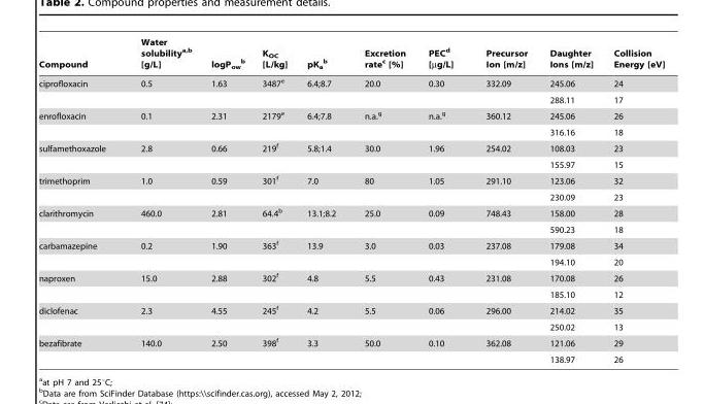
<table><thead><tr><td>Compound</td><td>Water solubilitya,b [g/L]</td><td>logP<sub>ow</sub> b</td><td>K<sub>OC</sub> [L/kg]</td><td>pK<sub>a</sub> b</td><td>Excretion rate<sup>c</sup> [%]</td><td>PEC<sup>d</sup> [µg/L]</td><td>Precursor Ion [m/z]</td><td>Daughter Ions [m/z]</td><td>Collision Energy [eV]</td></tr></thead><tbody><tr><td rowspan="2">ciprofloxacin</td><td>0.5</td><td>1.63</td><td>3487<sup>e</sup></td><td>6.4;8.7</td><td>20.0</td><td>0.30</td><td>332.09</td><td>245.06</td><td>24</td></tr><tr><td></td><td></td><td></td><td></td><td></td><td></td><td></td><td>288.11</td><td>17</td></tr><tr><td rowspan="2">enrofloxacin</td><td>0.1</td><td>2.31</td><td>2179<sup>e</sup></td><td>6.4;7.8</td><td>n.a.<sup>g</sup></td><td>n.a.<sup>g</sup></td><td>360.12</td><td>245.06</td><td>26</td></tr><tr><td></td><td></td><td></td><td></td><td></td><td></td><td></td><td>316.16</td><td>18</td></tr><tr><td rowspan="2">sulfamethoxazole</td><td>2.8</td><td>0.66</td><td>219<sup>f</sup></td><td>5.8;1.4</td><td>30.0</td><td>1.96</td><td>254.02</td><td>108.03</td><td>23</td></tr><tr><td></td><td></td><td></td><td></td><td></td><td></td><td></td><td>155.97</td><td>15</td></tr><tr><td rowspan="2">trimethoprim</td><td>1.0</td><td>0.59</td><td>301<sup>f</sup></td><td>7.0</td><td>80</td><td>1.05</td><td>291.10</td><td>123.06</td><td>32</td></tr><tr><td></td><td></td><td></td><td></td><td></td><td></td><td></td><td>230.09</td><td>23</td></tr><tr><td rowspan="2">clarithromycin</td><td>460.0</td><td>2.81</td><td>64.4<sup>b</sup></td><td>13.1;8.2</td><td>25.0</td><td>0.09</td><td>748.43</td><td>158.00</td><td>28</td></tr><tr><td></td><td></td><td></td><td></td><td></td><td></td><td></td><td>590.23</td><td>18</td></tr><tr><td rowspan="2">carbamazepine</td><td>0.2</td><td>1.90</td><td>363<sup>f</sup></td><td>13.9</td><td>3.0</td><td>0.03</td><td>237.08</td><td>179.08</td><td>34</td></tr><tr><td></td><td></td><td></td><td></td><td></td><td></td><td></td><td>194.10</td><td>20</td></tr><tr><td rowspan="2">naproxen</td><td>15.0</td><td>2.88</td><td>302<sup>f</sup></td><td>4.8</td><td>5.5</td><td>0.43</td><td>231.08</td><td>170.08</td><td>26</td></tr><tr><td></td><td></td><td></td><td></td><td></td><td></td><td></td><td>185.10</td><td>12</td></tr><tr><td rowspan="2">diclofenac</td><td>2.3</td><td>4.55</td><td>245<sup>f</sup></td><td>4.2</td><td>5.5</td><td>0.06</td><td>296.00</td><td>214.02</td><td>35</td></tr><tr><td></td><td></td><td></td><td></td><td></td><td></td><td></td><td>250.02</td><td>13</td></tr><tr><td rowspan="2">bezafibrate</td><td>140.0</td><td>2.50</td><td>398<sup>f</sup></td><td>3.3</td><td>50.0</td><td>0.10</td><td>362.08</td><td>121.06</td><td>29</td></tr><tr><td></td><td></td><td></td><td></td><td></td><td></td><td></td><td>138.97</td><td>26</td></tr></tbody></table>